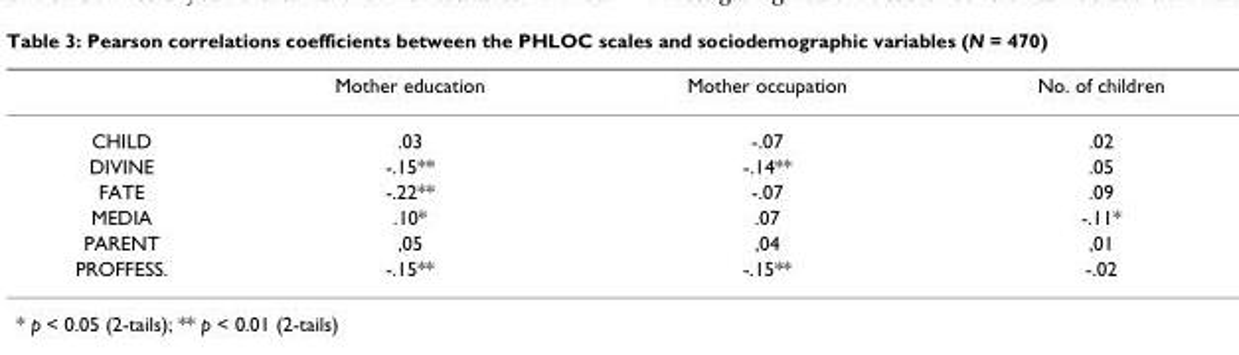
<table><thead><tr><td></td><td>Mother education</td><td>Mother occupation</td><td>No. of children</td></tr></thead><tbody><tr><td>CHILD</td><td>.03</td><td>-.07</td><td>.02</td></tr><tr><td>DIVINE</td><td>-.15**</td><td>-.14**</td><td>.05</td></tr><tr><td>FATE</td><td>-.22**</td><td>-.07</td><td>.09</td></tr><tr><td>MEDIA</td><td>.10*</td><td>.07</td><td>-.11*</td></tr><tr><td>PARENT</td><td>,05</td><td>,04</td><td>,01</td></tr><tr><td>PROFFESS.</td><td>-.15**</td><td>-.15**</td><td>-.02</td></tr></tbody></table>